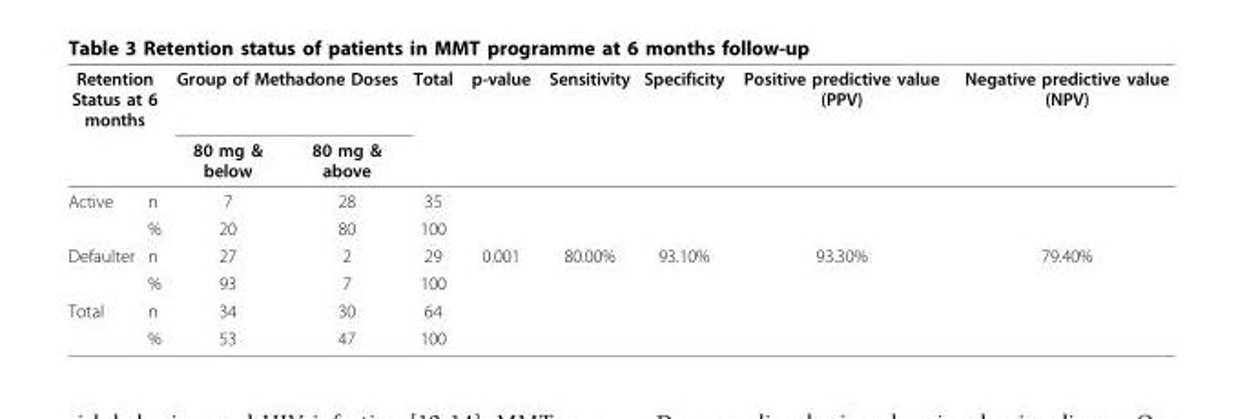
<table><thead><tr><td colspan="2">Retention Status at 6 months</td><td colspan="2">Group of Methadone Doses</td><td rowspan="2">Total</td><td rowspan="2">p-value</td><td rowspan="2">Sensitivity</td><td rowspan="2">Specificity</td><td rowspan="2">Positive predictive value (PPV)</td><td rowspan="2">Negative predictive value (NPV)</td></tr><tr><td></td><td></td><td>80 mg &amp; below</td><td>80 mg &amp; above</td></tr></thead><tbody><tr><td rowspan="2">Active</td><td>n</td><td>7</td><td>28</td><td>35</td><td></td><td></td><td></td><td></td><td></td></tr><tr><td>%</td><td>20</td><td>80</td><td>100</td><td></td><td></td><td></td><td></td><td></td></tr><tr><td rowspan="2">Defaulter</td><td>n</td><td>27</td><td>2</td><td>29</td><td>0.001</td><td>80.00%</td><td>93.10%</td><td>93.30%</td><td>79.40%</td></tr><tr><td>%</td><td>93</td><td>7</td><td>100</td><td></td><td></td><td></td><td></td><td></td></tr><tr><td rowspan="2">Total</td><td>n</td><td>34</td><td>30</td><td>64</td><td></td><td></td><td></td><td></td><td></td></tr><tr><td>%</td><td>53</td><td>47</td><td>100</td><td></td><td></td><td></td><td></td><td></td></tr></tbody></table>